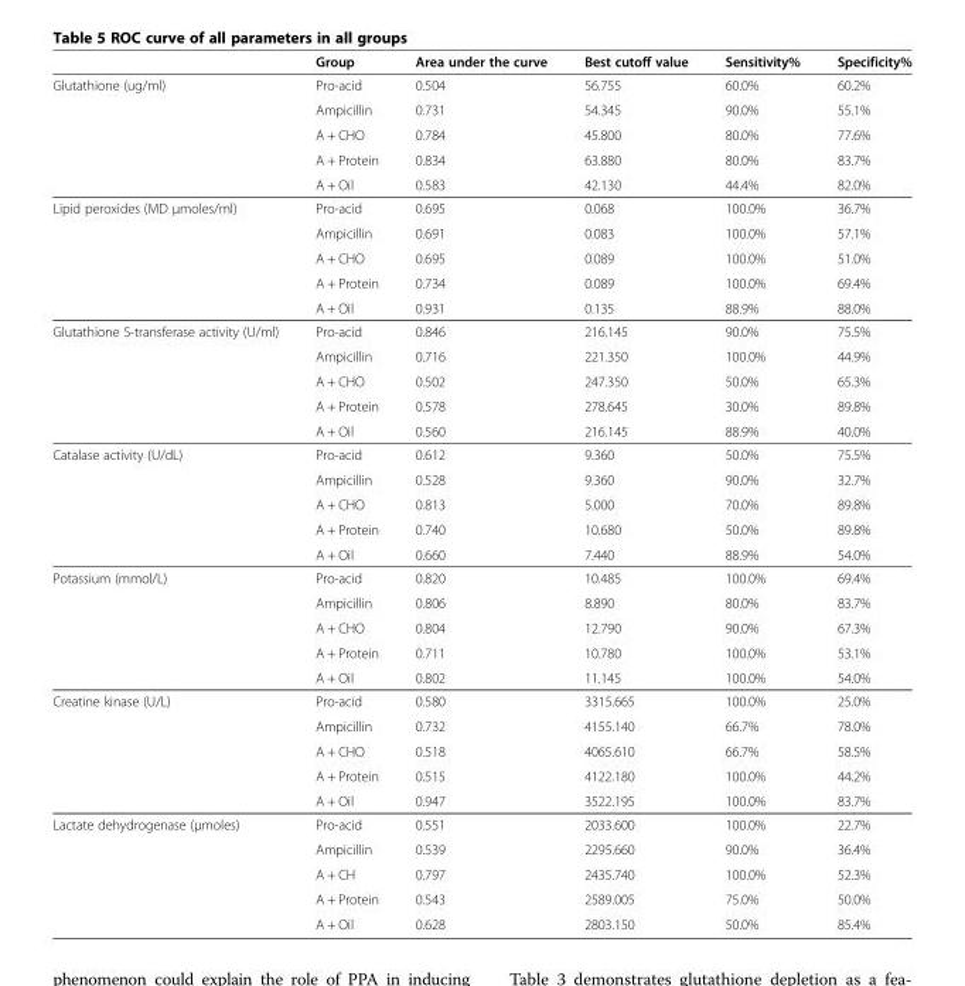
<table><thead><tr><td></td><td>Group</td><td>Area under the curve</td><td>Best cutoff value</td><td>Sensitivity%</td><td>Specificity%</td></tr></thead><tbody><tr><td rowspan="5">Glutathione (ug/ml)</td><td>Pro-acid</td><td>0.504</td><td>56.755</td><td>60.0%</td><td>60.2%</td></tr><tr><td>Ampicillin</td><td>0.731</td><td>54.345</td><td>90.0%</td><td>55.1%</td></tr><tr><td>A + CHO</td><td>0.784</td><td>45.800</td><td>80.0%</td><td>77.6%</td></tr><tr><td>A + Protein</td><td>0.834</td><td>63.880</td><td>80.0%</td><td>83.7%</td></tr><tr><td>A + Oil</td><td>0.583</td><td>42.130</td><td>44.4%</td><td>82.0%</td></tr><tr><td rowspan="5">Lipid peroxides (MD μmoles/ml)</td><td>Pro-acid</td><td>0.695</td><td>0.068</td><td>100.0%</td><td>36.7%</td></tr><tr><td>Ampicillin</td><td>0.691</td><td>0.083</td><td>100.0%</td><td>57.1%</td></tr><tr><td>A + CHO</td><td>0.695</td><td>0.089</td><td>100.0%</td><td>51.0%</td></tr><tr><td>A + Protein</td><td>0.734</td><td>0.089</td><td>100.0%</td><td>69.4%</td></tr><tr><td>A + Oil</td><td>0.931</td><td>0.135</td><td>88.9%</td><td>88.0%</td></tr><tr><td rowspan="5">Glutathione S-transferase activity (U/ml)</td><td>Pro-acid</td><td>0.846</td><td>216.145</td><td>90.0%</td><td>75.5%</td></tr><tr><td>Ampicillin</td><td>0.716</td><td>221.350</td><td>100.0%</td><td>44.9%</td></tr><tr><td>A + CHO</td><td>0.502</td><td>247.350</td><td>50.0%</td><td>65.3%</td></tr><tr><td>A + Protein</td><td>0.578</td><td>278.645</td><td>30.0%</td><td>89.8%</td></tr><tr><td>A + Oil</td><td>0.560</td><td>216.145</td><td>88.9%</td><td>40.0%</td></tr><tr><td rowspan="5">Catalase activity (U/dL)</td><td>Pro-acid</td><td>0.612</td><td>9.360</td><td>50.0%</td><td>75.5%</td></tr><tr><td>Ampicillin</td><td>0.528</td><td>9.360</td><td>90.0%</td><td>32.7%</td></tr><tr><td>A + CHO</td><td>0.813</td><td>5.000</td><td>70.0%</td><td>89.8%</td></tr><tr><td>A + Protein</td><td>0.740</td><td>10.680</td><td>50.0%</td><td>89.8%</td></tr><tr><td>A + Oil</td><td>0.660</td><td>7.440</td><td>88.9%</td><td>54.0%</td></tr><tr><td rowspan="5">Potassium (mmol/L)</td><td>Pro-acid</td><td>0.820</td><td>10.485</td><td>100.0%</td><td>69.4%</td></tr><tr><td>Ampicillin</td><td>0.806</td><td>8.890</td><td>80.0%</td><td>83.7%</td></tr><tr><td>A + CHO</td><td>0.804</td><td>12.790</td><td>90.0%</td><td>67.3%</td></tr><tr><td>A + Protein</td><td>0.711</td><td>10.780</td><td>100.0%</td><td>53.1%</td></tr><tr><td>A + Oil</td><td>0.802</td><td>11.145</td><td>100.0%</td><td>54.0%</td></tr><tr><td rowspan="5">Creatine kinase (U/L)</td><td>Pro-acid</td><td>0.580</td><td>3315.665</td><td>100.0%</td><td>25.0%</td></tr><tr><td>Ampicillin</td><td>0.732</td><td>4155.140</td><td>66.7%</td><td>78.0%</td></tr><tr><td>A + CHO</td><td>0.518</td><td>4065.610</td><td>66.7%</td><td>58.5%</td></tr><tr><td>A + Protein</td><td>0.515</td><td>4122.180</td><td>100.0%</td><td>44.2%</td></tr><tr><td>A + Oil</td><td>0.947</td><td>3522.195</td><td>100.0%</td><td>83.7%</td></tr><tr><td rowspan="5">Lactate dehydrogenase (μmoles)</td><td>Pro-acid</td><td>0.551</td><td>2033.600</td><td>100.0%</td><td>22.7%</td></tr><tr><td>Ampicillin</td><td>0.539</td><td>2295.660</td><td>90.0%</td><td>36.4%</td></tr><tr><td>A + CH</td><td>0.797</td><td>2435.740</td><td>100.0%</td><td>52.3%</td></tr><tr><td>A + Protein</td><td>0.543</td><td>2589.005</td><td>75.0%</td><td>50.0%</td></tr><tr><td>A + Oil</td><td>0.628</td><td>2803.150</td><td>50.0%</td><td>85.4%</td></tr></tbody></table>